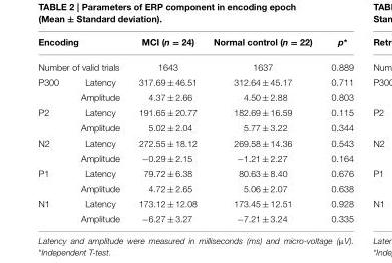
<table><thead><tr><td rowspan="2" colspan="2">Encoding Number of valid trials</td><td rowspan="3">MCI (n = 24) 1643 317.69 ± 46.51</td><td rowspan="3">Normal control (n = 22) 1637 312.64 ± 45.17</td><td rowspan="3">p* 0.889 0.711</td></tr><tr></tr><tr><td>P300</td><td>Latency</td></tr></thead><tbody><tr><td></td><td>Amplitude</td><td>4.37 ± 2.66</td><td>4.50 ± 2.88</td><td>0.803</td></tr><tr><td rowspan="2">P2</td><td>Latency</td><td>191.65 ± 20.77</td><td>182.69 ± 16.59</td><td>0.115</td></tr><tr><td>Amplitude</td><td>5.02 ± 2.04</td><td>5.77 ± 3.22</td><td>0.344</td></tr><tr><td rowspan="2">N2</td><td>Latency</td><td>272.55 ± 18.12</td><td>269.58 ± 14.36</td><td>0.543</td></tr><tr><td>Amplitude</td><td>−0.29 ± 2.15</td><td>−1.21 ± 2.27</td><td>0.164</td></tr><tr><td rowspan="2">P1</td><td>Latency</td><td>79.72 ± 6.38</td><td>80.63 ± 8.40</td><td>0.676</td></tr><tr><td>Amplitude</td><td>4.72 ± 2.65</td><td>5.06 ± 2.07</td><td>0.638</td></tr><tr><td rowspan="2">N1</td><td>Latency</td><td>173.12 ± 12.08</td><td>173.45 ± 12.51</td><td>0.928</td></tr><tr><td>Amplitude</td><td>−6.27 ± 3.27</td><td>−7.21 ± 3.24</td><td>0.335</td></tr></tbody></table>